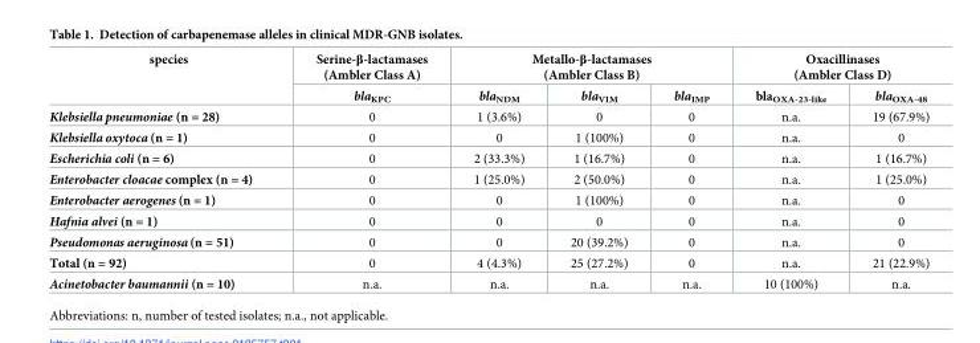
<table><thead><tr><td rowspan="2">species</td><td rowspan="2">Serine-β-lactamases (Ambler Class A) bla<sub>KPC</sub></td><td colspan="3">Metallo-β-lactamases (Ambler Class B)</td><td colspan="2">Oxacillinases (Ambler Class D)</td></tr><tr><td>bla<sub>NDM</sub></td><td>bla<sub>VIM</sub></td><td>bla<sub>IMP</sub></td><td>bla<sub>OXA-23-like</sub></td><td>bla<sub>OXA-48</sub></td></tr></thead><tbody><tr><td>Klebsiella pneumoniae (n = 28)</td><td>0</td><td>1 (3.6%)</td><td>0</td><td>0</td><td>n.a.</td><td>19 (67.9%)</td></tr><tr><td>Klebsiella oxytoca (n = 1)</td><td>0</td><td>0</td><td>1 (100%)</td><td>0</td><td>n.a.</td><td>0</td></tr><tr><td>Escherichia coli (n = 6)</td><td>0</td><td>2 (33.3%)</td><td>1 (16.7%)</td><td>0</td><td>n.a.</td><td>1 (16.7%)</td></tr><tr><td>Enterobacter cloacae complex (n = 4)</td><td>0</td><td>1 (25.0%)</td><td>2 (50.0%)</td><td>0</td><td>n.a.</td><td>1 (25.0%)</td></tr><tr><td>Enterobacter aerogenes (n = 1)</td><td>0</td><td>0</td><td>1 (100%)</td><td>0</td><td>n.a.</td><td>0</td></tr><tr><td>Hafnia alvei (n = 1)</td><td>0</td><td>0</td><td>0</td><td>0</td><td>n.a.</td><td>0</td></tr><tr><td>Pseudomonas aeruginosa(n = 51)</td><td>0</td><td>0</td><td>20 (39.2%)</td><td>0</td><td>n.a.</td><td>0</td></tr><tr><td>Total (n = 92)</td><td>0</td><td>4 (4.3%)</td><td>25 (27.2%)</td><td>0</td><td>n.a.</td><td>21 (22.9%)</td></tr><tr><td>Acinetobacter baumannii (n = 10)</td><td>n.a.</td><td>n.a.</td><td>n.a.</td><td>n.a.</td><td>10 (100%)</td><td>n.a.</td></tr></tbody></table>